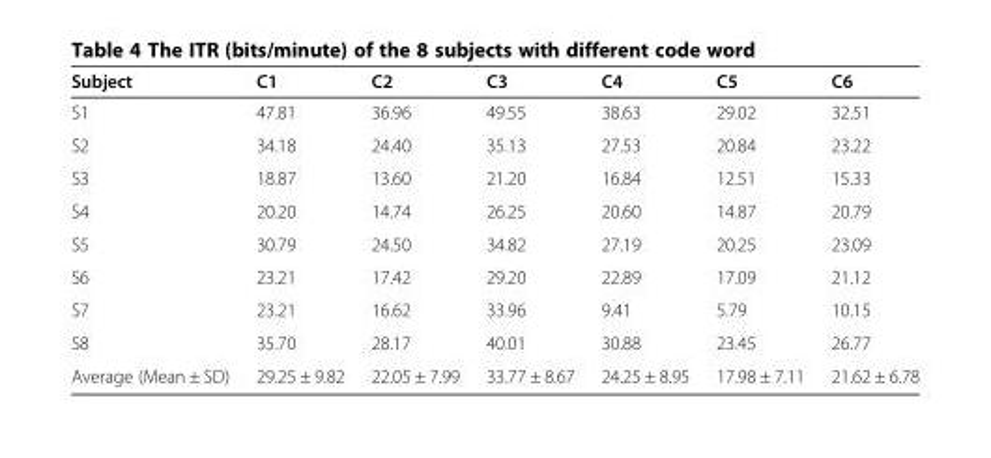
<table><thead><tr><td>Subject</td><td>C1</td><td>C2</td><td>C3</td><td>C4</td><td>C5</td><td>C6</td></tr></thead><tbody><tr><td>S1</td><td>47.81</td><td>36.96</td><td>49.55</td><td>38.63</td><td>29.02</td><td>32.51</td></tr><tr><td>S2</td><td>34.18</td><td>24.40</td><td>35.13</td><td>27.53</td><td>20.84</td><td>23.22</td></tr><tr><td>S3</td><td>18.87</td><td>13.60</td><td>21.20</td><td>16.84</td><td>12.51</td><td>15.33</td></tr><tr><td>S4</td><td>20.20</td><td>14.74</td><td>26.25</td><td>20.60</td><td>14.87</td><td>20.79</td></tr><tr><td>S5</td><td>30.79</td><td>24.50</td><td>34.82</td><td>27.19</td><td>20.25</td><td>23.09</td></tr><tr><td>S6</td><td>23.21</td><td>17.42</td><td>29.20</td><td>22.89</td><td>17.09</td><td>21.12</td></tr><tr><td>S7</td><td>23.21</td><td>16.62</td><td>33.96</td><td>9.41</td><td>5.79</td><td>10.15</td></tr><tr><td>S8</td><td>35.70</td><td>28.17</td><td>40.01</td><td>30.88</td><td>23.45</td><td>26.77</td></tr><tr><td>Average (Mean ± SD)</td><td>29.25 ± 9.82</td><td>22.05 ± 7.99</td><td>33.77 ± 8.67</td><td>24.25 ± 8.95</td><td>17.98 ± 7.11</td><td>21.62 ± 6.78</td></tr></tbody></table>